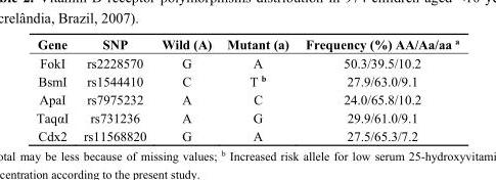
<table><thead><tr><td>Gene</td><td>SNP</td><td>Wild (A)</td><td>Mutant (a)</td><td>Frequency (%) AA/Aa/aa <sup>a</sup></td></tr></thead><tbody><tr><td>FokI</td><td>rs2228570</td><td>G</td><td>A</td><td>50.3/39.5/10.2</td></tr><tr><td>BsmI</td><td>rs1544410</td><td>C</td><td>T <sup>b</sup></td><td>27.9/63.0/9.1</td></tr><tr><td>ApaI</td><td>rs7975232</td><td>A</td><td>C</td><td>24.0/65.8/10.2</td></tr><tr><td>TaqαI</td><td>rs731236</td><td>A</td><td>G</td><td>29.9/61.0/9.1</td></tr><tr><td>Cdx2</td><td>rs11568820</td><td>G</td><td>A</td><td>27.5/65.3/7.2</td></tr></tbody></table>